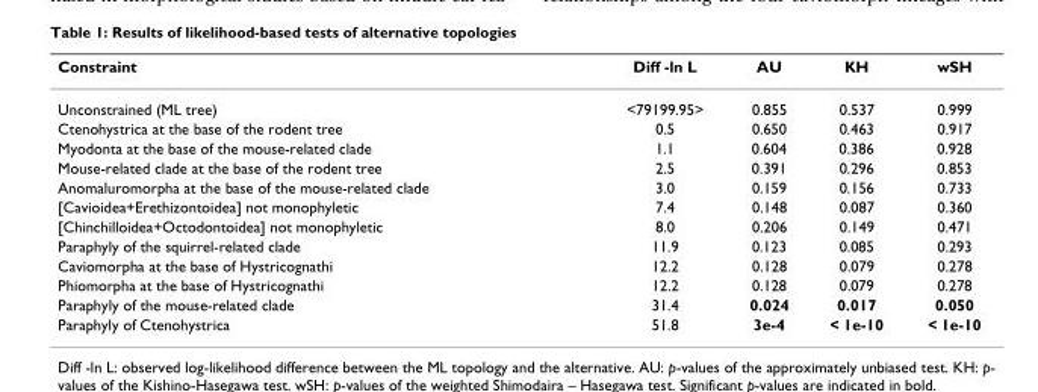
<table><thead><tr><td>Constraint</td><td>Diff -ln L</td><td>AU</td><td>KH</td><td>wSH</td></tr></thead><tbody><tr><td>Unconstrained (ML tree)</td><td>&lt;79199.95&gt;</td><td>0.855</td><td>0.537</td><td>0.999</td></tr><tr><td>Ctenohystrica at the base of the rodent tree</td><td>0.5</td><td>0.650</td><td>0.463</td><td>0.917</td></tr><tr><td>Myodonta at the base of the mouse-related clade</td><td>1.1</td><td>0.604</td><td>0.386</td><td>0.928</td></tr><tr><td>Mouse-related clade at the base of the rodent tree</td><td>2.5</td><td>0.391</td><td>0.296</td><td>0.853</td></tr><tr><td>Anomaluromorpha at the base of the mouse-related clade</td><td>3.0</td><td>0.159</td><td>0.156</td><td>0.733</td></tr><tr><td>[Cavioidea+Erethizontoidea] not monophyletic</td><td>7.4</td><td>0.148</td><td>0.087</td><td>0.360</td></tr><tr><td>[Chinchilloidea+Octodontoidea] not monophyletic</td><td>8.0</td><td>0.206</td><td>0.149</td><td>0.471</td></tr><tr><td>Paraphyly of the squirrel-related clade</td><td>11.9</td><td>0.123</td><td>0.085</td><td>0.293</td></tr><tr><td>Caviomorpha at the base of Hystricognathi</td><td>12.2</td><td>0.128</td><td>0.079</td><td>0.278</td></tr><tr><td>Phiomorpha at the base of Hystricognathi</td><td>12.2</td><td>0.128</td><td>0.079</td><td>0.278</td></tr><tr><td>Paraphyly of the mouse-related clade</td><td>31.4</td><td>0.024</td><td>0.017</td><td>0.050</td></tr><tr><td>Paraphyly of Ctenohystrica</td><td>51.8</td><td>3e-4</td><td>&lt; 1e-10</td><td>&lt; 1e-10</td></tr></tbody></table>